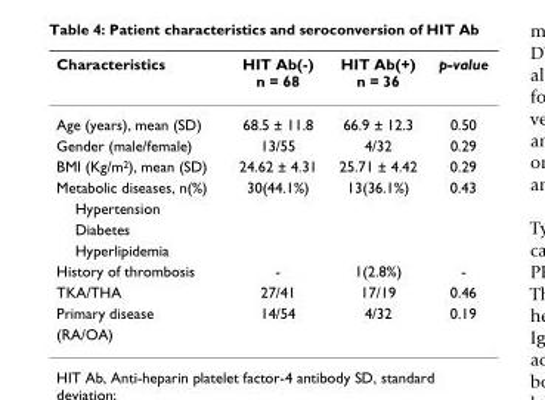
<table><thead><tr><td>Characteristics</td><td>HIT Ab(-) n = 68</td><td>HIT Ab(+) n = 36</td><td>p-value</td></tr></thead><tbody><tr><td>Age (years), mean (SD)</td><td>68.5 ± 11.8</td><td>66.9 ± 12.3</td><td>0.50</td></tr><tr><td>Gender (male/female)</td><td>13/55</td><td>4/32</td><td>0.29</td></tr><tr><td>BMI (Kg/m<sup>2</sup>), mean (SD)</td><td>24.62 ± 4.31</td><td>25.71 ± 4.42</td><td>0.29</td></tr><tr><td>Metabolic diseases, n(%)</td><td>30(44.1%)</td><td>13(36.1%)</td><td>0.43</td></tr><tr><td colspan="4">Hypertension</td></tr><tr><td colspan="4">Diabetes</td></tr><tr><td colspan="4">Hyperlipidemia</td></tr><tr><td>History of thrombosis</td><td>-</td><td>1(2.8%)</td><td>-</td></tr><tr><td>TKA/THA</td><td>27/41</td><td>17/19</td><td>0.46</td></tr><tr><td>Primary disease</td><td>14/54</td><td>4/32</td><td>0.19</td></tr><tr><td>(RA/OA)</td><td></td><td></td><td></td></tr></tbody></table>